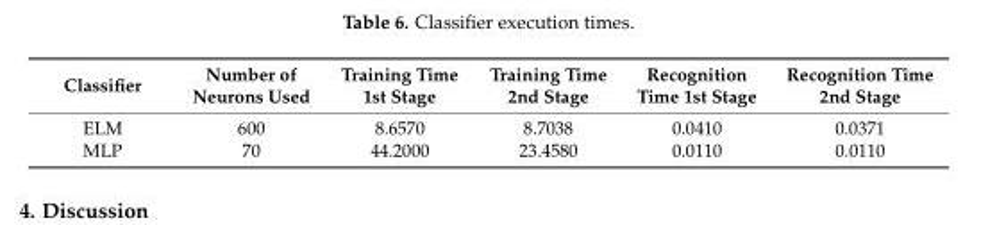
<table><thead><tr><td>Classifier</td><td>Number of Neurons Used</td><td>Training Time 1st Stage</td><td>Training Time 2nd Stage</td><td>Recognition Time 1st Stage</td><td>Recognition Time 2nd Stage</td></tr></thead><tbody><tr><td>ELM</td><td>600</td><td>8.6570</td><td>8.7038</td><td>0.0410</td><td>0.0371</td></tr><tr><td>MLP</td><td>70</td><td>44.2000</td><td>23.4580</td><td>0.0110</td><td>0.0110</td></tr></tbody></table>